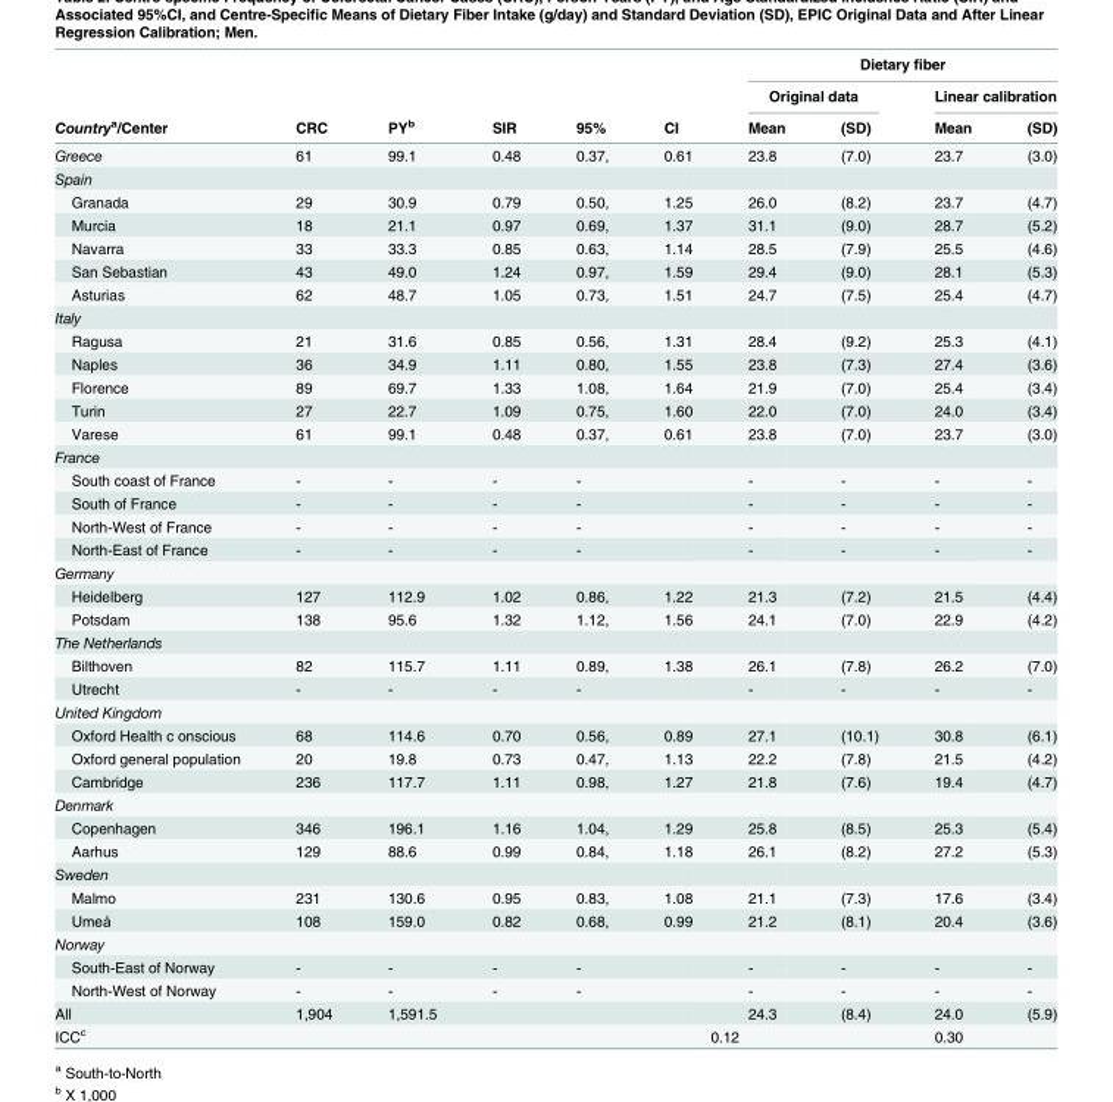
<table><thead><tr><td rowspan="3">Country<sup>a</sup>/Center</td><td rowspan="3">CRC</td><td rowspan="3">PY<sup>b</sup></td><td rowspan="3">SIR</td><td rowspan="3">95%</td><td rowspan="3">CI</td><td colspan="4">Dietary fiber</td></tr><tr><td colspan="2">Original data</td><td colspan="2">Linear calibration</td></tr><tr><td>Mean</td><td>(SD)</td><td>Mean</td><td>(SD)</td></tr></thead><tbody><tr><td>Greece</td><td>61</td><td>99.1</td><td>0.48</td><td>0.37,</td><td>0.61</td><td>23.8</td><td>(7.0)</td><td>23.7</td><td>(3.0)</td></tr><tr><td colspan="10">Spain</td></tr><tr><td>Granada</td><td>29</td><td>30.9</td><td>0.79</td><td>0.50,</td><td>1.25</td><td>26.0</td><td>(8.2)</td><td>23.7</td><td>(4.7)</td></tr><tr><td>Murcia</td><td>18</td><td>21.1</td><td>0.97</td><td>0.69,</td><td>1.37</td><td>31.1</td><td>(9.0)</td><td>28.7</td><td>(5.2)</td></tr><tr><td>Navarra</td><td>33</td><td>33.3</td><td>0.85</td><td>0.63,</td><td>1.14</td><td>28.5</td><td>(7.9)</td><td>25.5</td><td>(4.6)</td></tr><tr><td>San Sebastian</td><td>43</td><td>49.0</td><td>1.24</td><td>0.97,</td><td>1.59</td><td>29.4</td><td>(9.0)</td><td>28.1</td><td>(5.3)</td></tr><tr><td>Asturias</td><td>62</td><td>48.7</td><td>1.05</td><td>0.73,</td><td>1.51</td><td>24.7</td><td>(7.5)</td><td>25.4</td><td>(4.7)</td></tr><tr><td colspan="10">Italy</td></tr><tr><td>Ragusa</td><td>21</td><td>31.6</td><td>0.85</td><td>0.56,</td><td>1.31</td><td>28.4</td><td>(9.2)</td><td>25.3</td><td>(4.1)</td></tr><tr><td>Naples</td><td>36</td><td>34.9</td><td>1.11</td><td>0.80,</td><td>1.55</td><td>23.8</td><td>(7.3)</td><td>27.4</td><td>(3.6)</td></tr><tr><td>Florence</td><td>89</td><td>69.7</td><td>1.33</td><td>1.08,</td><td>1.64</td><td>21.9</td><td>(7.0)</td><td>25.4</td><td>(3.4)</td></tr><tr><td>Turin</td><td>27</td><td>22.7</td><td>1.09</td><td>0.75,</td><td>1.60</td><td>22.0</td><td>(7.0)</td><td>24.0</td><td>(3.4)</td></tr><tr><td>Varese</td><td>61</td><td>99.1</td><td>0.48</td><td>0.37,</td><td>0.61</td><td>23.8</td><td>(7.0)</td><td>23.7</td><td>(3.0)</td></tr><tr><td colspan="10">France</td></tr><tr><td>South coast of France</td><td>-</td><td>-</td><td>-</td><td>-</td><td></td><td>-</td><td>-</td><td>-</td><td>-</td></tr><tr><td>South of France</td><td>-</td><td>-</td><td>-</td><td>-</td><td></td><td>-</td><td>-</td><td>-</td><td>-</td></tr><tr><td>North-West of France</td><td>-</td><td>-</td><td>-</td><td>-</td><td></td><td>-</td><td>-</td><td>-</td><td>-</td></tr><tr><td>North-East of France</td><td>-</td><td>-</td><td>-</td><td>-</td><td></td><td>-</td><td>-</td><td>-</td><td>-</td></tr><tr><td colspan="10">Germany</td></tr><tr><td>Heidelberg</td><td>127</td><td>112.9</td><td>1.02</td><td>0.86,</td><td>1.22</td><td>21.3</td><td>(7.2)</td><td>21.5</td><td>(4.4)</td></tr><tr><td>Potsdam</td><td>138</td><td>95.6</td><td>1.32</td><td>1.12,</td><td>1.56</td><td>24.1</td><td>(7.0)</td><td>22.9</td><td>(4.2)</td></tr><tr><td colspan="10">The Netherlands</td></tr><tr><td>Bilthoven</td><td>82</td><td>115.7</td><td>1.11</td><td>0.89,</td><td>1.38</td><td>26.1</td><td>(7.8)</td><td>26.2</td><td>(7.0)</td></tr><tr><td>Utrecht</td><td>-</td><td>-</td><td>-</td><td>-</td><td></td><td>-</td><td>-</td><td>-</td><td>-</td></tr><tr><td colspan="10">United Kingdom</td></tr><tr><td>Oxford Health c onscious</td><td>68</td><td>114.6</td><td>0.70</td><td>0.56,</td><td>0.89</td><td>27.1</td><td>(10.1)</td><td>30.8</td><td>(6.1)</td></tr><tr><td>Oxford general population</td><td>20</td><td>19.8</td><td>0.73</td><td>0.47,</td><td>1.13</td><td>22.2</td><td>(7.8)</td><td>21.5</td><td>(4.2)</td></tr><tr><td>Cambridge</td><td>236</td><td>117.7</td><td>1.11</td><td>0.98,</td><td>1.27</td><td>21.8</td><td>(7.6)</td><td>19.4</td><td>(4.7)</td></tr><tr><td colspan="10">Denmark</td></tr><tr><td>Copenhagen</td><td>346</td><td>196.1</td><td>1.16</td><td>1.04,</td><td>1.29</td><td>25.8</td><td>(8.5)</td><td>25.3</td><td>(5.4)</td></tr><tr><td>Aarhus</td><td>129</td><td>88.6</td><td>0.99</td><td>0.84,</td><td>1.18</td><td>26.1</td><td>(8.2)</td><td>27.2</td><td>(5.3)</td></tr><tr><td colspan="10">Sweden</td></tr><tr><td>Malmo</td><td>231</td><td>130.6</td><td>0.95</td><td>0.83,</td><td>1.08</td><td>21.1</td><td>(7.3)</td><td>17.6</td><td>(3.4)</td></tr><tr><td>Umeå</td><td>108</td><td>159.0</td><td>0.82</td><td>0.68,</td><td>0.99</td><td>21.2</td><td>(8.1)</td><td>20.4</td><td>(3.6)</td></tr><tr><td colspan="10">Norway</td></tr><tr><td>South-East of Norway</td><td>-</td><td>-</td><td>-</td><td>-</td><td></td><td>-</td><td>-</td><td>-</td><td>-</td></tr><tr><td>North-West of Norway</td><td>-</td><td>-</td><td>-</td><td>-</td><td></td><td>-</td><td>-</td><td>-</td><td>-</td></tr><tr><td>All</td><td>1,904</td><td>1,591.5</td><td></td><td></td><td></td><td>24.3</td><td>(8.4)</td><td>24.0</td><td>(5.9)</td></tr><tr><td>ICC<sup>c</sup></td><td></td><td></td><td></td><td></td><td colspan="2">0.12</td><td></td><td>0.30</td><td></td></tr></tbody></table>